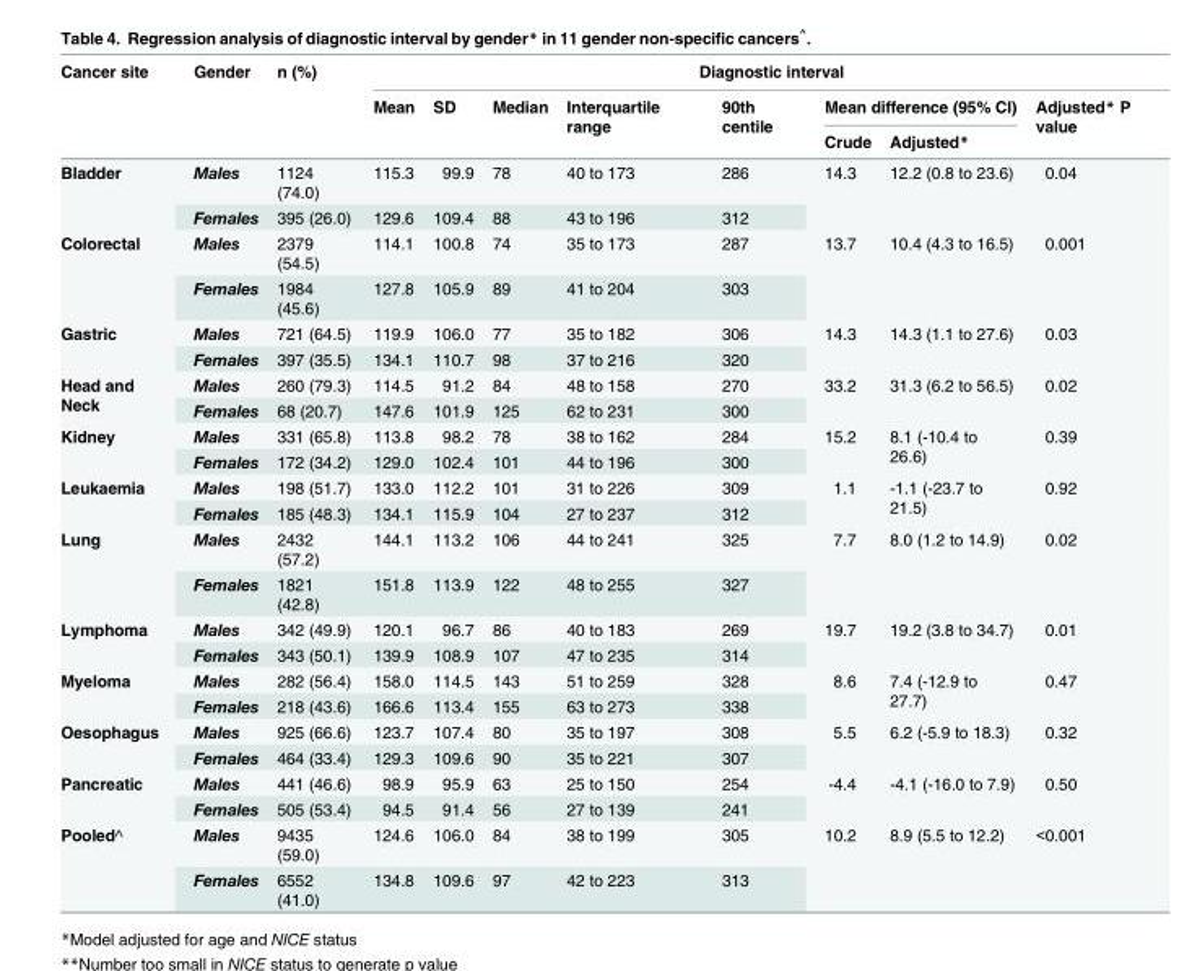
<table><thead><tr><td rowspan="3">Cancer site</td><td rowspan="3">Gender</td><td rowspan="3">n (%)</td><td colspan="8">Diagnostic interval</td></tr><tr><td rowspan="2">Mean</td><td rowspan="2">SD</td><td rowspan="2">Median</td><td rowspan="2">Interquartile range</td><td rowspan="2">90th centile</td><td colspan="2">Mean difference (95% CI)</td><td rowspan="2">Adjusted* P value</td></tr><tr><td>Crude</td><td>Adjusted*</td></tr></thead><tbody><tr><td rowspan="2">Bladder</td><td>Males</td><td>1124 (74.0)</td><td>115.3</td><td>99.9</td><td>78</td><td>40 to 173</td><td>286</td><td rowspan="2">14.3</td><td rowspan="2">12.2 (0.8 to 23.6)</td><td rowspan="2">0.04</td></tr><tr><td>Females</td><td>395 (26.0)</td><td>129.6</td><td>109.4</td><td>88</td><td>43 to 196</td><td>312</td></tr><tr><td rowspan="2">Colorectal</td><td>Males</td><td>2379 (54.5)</td><td>114.1</td><td>100.8</td><td>74</td><td>35 to 173</td><td>287</td><td rowspan="2">13.7</td><td rowspan="2">10.4 (4.3 to 16.5)</td><td rowspan="2">0.001</td></tr><tr><td>Females</td><td>1984 (45.6)</td><td>127.8</td><td>105.9</td><td>89</td><td>41 to 204</td><td>303</td></tr><tr><td rowspan="2">Gastric</td><td>Males</td><td>721 (64.5)</td><td>119.9</td><td>106.0</td><td>77</td><td>35 to 182</td><td>306</td><td rowspan="2">14.3</td><td rowspan="2">14.3 (1.1 to 27.6)</td><td rowspan="2">0.03</td></tr><tr><td>Females</td><td>397 (35.5)</td><td>134.1</td><td>110.7</td><td>98</td><td>37 to 216</td><td>320</td></tr><tr><td rowspan="2">Head and Neck</td><td>Males</td><td>260 (79.3)</td><td>114.5</td><td>91.2</td><td>84</td><td>48 to 158</td><td>270</td><td rowspan="2">33.2</td><td rowspan="2">31.3 (6.2 to 56.5)</td><td rowspan="2">0.02</td></tr><tr><td>Females</td><td>68 (20.7)</td><td>147.6</td><td>101.9</td><td>125</td><td>62 to 231</td><td>300</td></tr><tr><td rowspan="2">Kidney</td><td>Males</td><td>331 (65.8)</td><td>113.8</td><td>98.2</td><td>78</td><td>38 to 162</td><td>284</td><td rowspan="2">15.2</td><td rowspan="2">8.1 (-10.4 to 26.6)</td><td rowspan="2">0.39</td></tr><tr><td>Females</td><td>172 (34.2)</td><td>129.0</td><td>102.4</td><td>101</td><td>44 to 196</td><td>300</td></tr><tr><td rowspan="2">Leukaemia</td><td>Males</td><td>198 (51.7)</td><td>133.0</td><td>112.2</td><td>101</td><td>31 to 226</td><td>309</td><td rowspan="2">1.1</td><td rowspan="2">-1.1 (-23.7 to 21.5)</td><td rowspan="2">0.92</td></tr><tr><td>Females</td><td>185 (48.3)</td><td>134.1</td><td>115.9</td><td>104</td><td>27 to 237</td><td>312</td></tr><tr><td rowspan="2">Lung</td><td>Males</td><td>2432 (57.2)</td><td>144.1</td><td>113.2</td><td>106</td><td>44 to 241</td><td>325</td><td rowspan="2">7.7</td><td rowspan="2">8.0 (1.2 to 14.9)</td><td rowspan="2">0.02</td></tr><tr><td>Females</td><td>1821 (42.8)</td><td>151.8</td><td>113.9</td><td>122</td><td>48 to 255</td><td>327</td></tr><tr><td rowspan="2">Lymphoma</td><td>Males</td><td>342 (49.9)</td><td>120.1</td><td>96.7</td><td>86</td><td>40 to 183</td><td>269</td><td rowspan="2">19.7</td><td rowspan="2">19.2 (3.8 to 34.7)</td><td rowspan="2">0.01</td></tr><tr><td>Females</td><td>343 (50.1)</td><td>139.9</td><td>108.9</td><td>107</td><td>47 to 235</td><td>314</td></tr><tr><td rowspan="2">Myeloma</td><td>Males</td><td>282 (56.4)</td><td>158.0</td><td>114.5</td><td>143</td><td>51 to 259</td><td>328</td><td rowspan="2">8.6</td><td rowspan="2">7.4 (-12.9 to 27.7)</td><td rowspan="2">0.47</td></tr><tr><td>Females</td><td>218 (43.6)</td><td>166.6</td><td>113.4</td><td>155</td><td>63 to 273</td><td>338</td></tr><tr><td rowspan="2">Oesophagus</td><td>Males</td><td>925 (66.6)</td><td>123.7</td><td>107.4</td><td>80</td><td>35 to 197</td><td>308</td><td rowspan="2">5.5</td><td rowspan="2">6.2 (-5.9 to 18.3)</td><td rowspan="2">0.32</td></tr><tr><td>Females</td><td>464 (33.4)</td><td>129.3</td><td>109.6</td><td>90</td><td>35 to 221</td><td>307</td></tr><tr><td rowspan="2">Pancreatic</td><td>Males</td><td>441 (46.6)</td><td>98.9</td><td>95.9</td><td>63</td><td>25 to 150</td><td>254</td><td rowspan="2">-4.4</td><td rowspan="2">-4.1 (-16.0 to 7.9)</td><td rowspan="2">0.50</td></tr><tr><td>Females</td><td>505 (53.4)</td><td>94.5</td><td>91.4</td><td>56</td><td>27 to 139</td><td>241</td></tr><tr><td rowspan="2">Pooled^</td><td>Males</td><td>9435 (59.0)</td><td>124.6</td><td>106.0</td><td>84</td><td>38 to 199</td><td>305</td><td rowspan="2">10.2</td><td rowspan="2">8.9 (5.5 to 12.2)</td><td rowspan="2">&lt;0.001</td></tr><tr><td>Females</td><td>6552 (41.0)</td><td>134.8</td><td>109.6</td><td>97</td><td>42 to 223</td><td>313</td></tr></tbody></table>